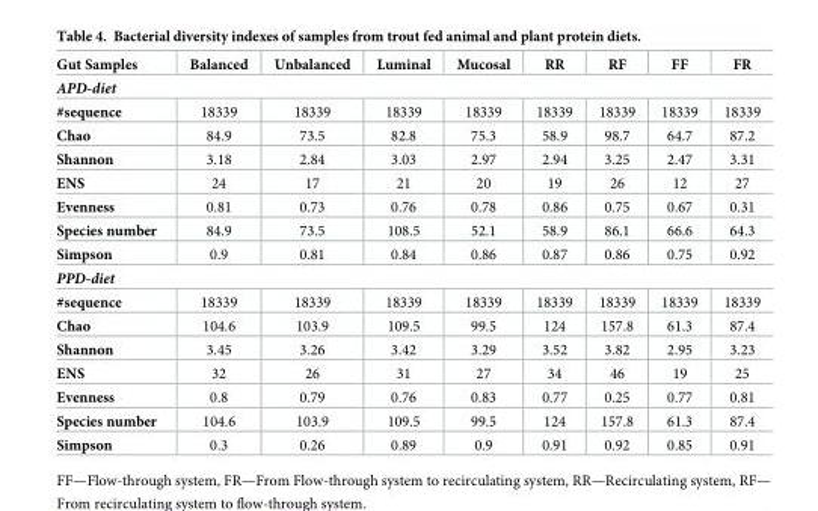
<table><thead><tr><td>Gut Samples</td><td>Balanced</td><td>Unbalanced</td><td>Luminal</td><td>Mucosal</td><td>RR</td><td>RF</td><td>FF</td><td>FR</td></tr></thead><tbody><tr><td colspan="9">APD-diet</td></tr><tr><td>#sequence</td><td>18339</td><td>18339</td><td>18339</td><td>18339</td><td>18339</td><td>18339</td><td>18339</td><td>18339</td></tr><tr><td>Chao</td><td>84.9</td><td>73.5</td><td>82.8</td><td>75.3</td><td>58.9</td><td>98.7</td><td>64.7</td><td>87.2</td></tr><tr><td>Shannon</td><td>3.18</td><td>2.84</td><td>3.03</td><td>2.97</td><td>2.94</td><td>3.25</td><td>2.47</td><td>3.31</td></tr><tr><td>ENS</td><td>24</td><td>17</td><td>21</td><td>20</td><td>19</td><td>26</td><td>12</td><td>27</td></tr><tr><td>Evenness</td><td>0.81</td><td>0.73</td><td>0.76</td><td>0.78</td><td>0.86</td><td>0.75</td><td>0.67</td><td>0.31</td></tr><tr><td>Species number</td><td>84.9</td><td>73.5</td><td>108.5</td><td>52.1</td><td>58.9</td><td>86.1</td><td>66.6</td><td>64.3</td></tr><tr><td>Simpson</td><td>0.9</td><td>0.81</td><td>0.84</td><td>0.86</td><td>0.87</td><td>0.86</td><td>0.75</td><td>0.92</td></tr><tr><td colspan="9">PPD-diet</td></tr><tr><td>#sequence</td><td>18339</td><td>18339</td><td>18339</td><td>18339</td><td>18339</td><td>18339</td><td>18339</td><td>18339</td></tr><tr><td>Chao</td><td>104.6</td><td>103.9</td><td>109.5</td><td>99.5</td><td>124</td><td>157.8</td><td>61.3</td><td>87.4</td></tr><tr><td>Shannon</td><td>3.45</td><td>3.26</td><td>3.42</td><td>3.29</td><td>3.52</td><td>3.82</td><td>2.95</td><td>3.23</td></tr><tr><td>ENS</td><td>32</td><td>26</td><td>31</td><td>27</td><td>34</td><td>46</td><td>19</td><td>25</td></tr><tr><td>Evenness</td><td>0.8</td><td>0.79</td><td>0.76</td><td>0.83</td><td>0.77</td><td>0.25</td><td>0.77</td><td>0.81</td></tr><tr><td>Species number</td><td>104.6</td><td>103.9</td><td>109.5</td><td>99.5</td><td>124</td><td>157.8</td><td>61.3</td><td>87.4</td></tr><tr><td>Simpson</td><td>0.3</td><td>0.26</td><td>0.89</td><td>0.9</td><td>0.91</td><td>0.92</td><td>0.85</td><td>0.91</td></tr></tbody></table>